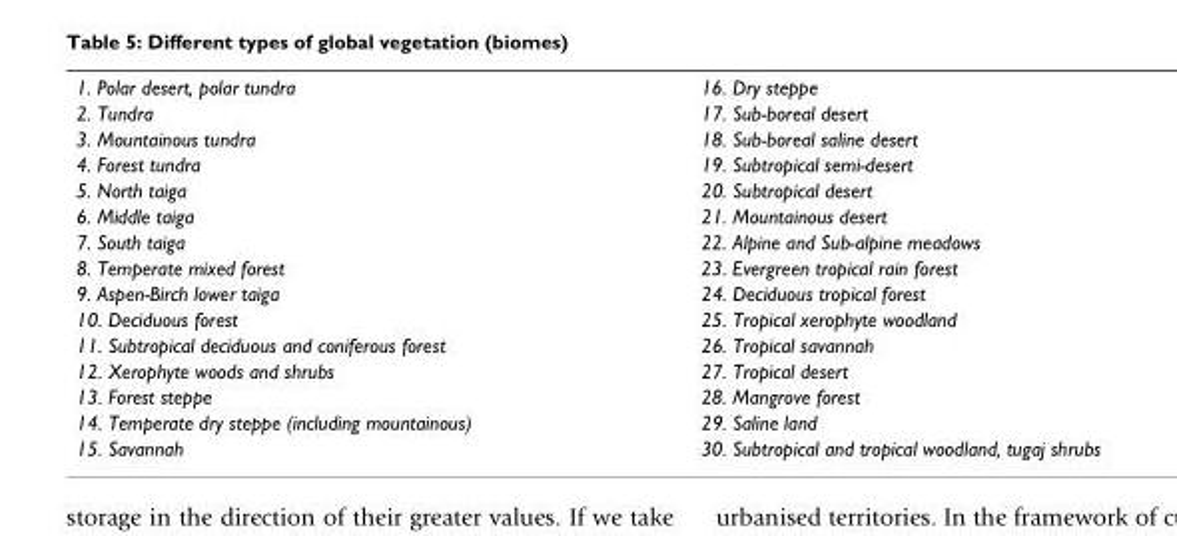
<table><tbody><tr><td>1. Polar desert, polar tundra</td><td>16. Dry steppe</td></tr><tr><td>2. Tundra</td><td>17. Sub-boreal desert</td></tr><tr><td>3. Mountainous tundra</td><td>18. Sub-boreal saline desert</td></tr><tr><td>4. Forest tundra</td><td>19. Subtropical semi-desert</td></tr><tr><td>5. North taiga</td><td>20. Subtropical desert</td></tr><tr><td>6. Middle taiga</td><td>21. Mountainous desert</td></tr><tr><td>7. South taiga</td><td>22. Alpine and Sub-alpine meadows</td></tr><tr><td>8. Temperate mixed forest</td><td>23. Evergreen tropical rain forest</td></tr><tr><td>9. Aspen-Birch lower taiga</td><td>24. Deciduous tropical forest</td></tr><tr><td>10. Deciduous forest</td><td>25. Tropical xerophyte woodland</td></tr><tr><td>11. Subtropical deciduous and coniferous forest</td><td>26. Tropical savannah</td></tr><tr><td>12. Xerophyte woods and shrubs</td><td>27. Tropical desert</td></tr><tr><td>13. Forest steppe</td><td>28. Mangrove forest</td></tr><tr><td>14. Temperate dry steppe (including mountainous)</td><td>29. Saline land</td></tr><tr><td>15. Savannah</td><td>30. Subtropical and tropical woodland, tugaj shrubs</td></tr></tbody></table>